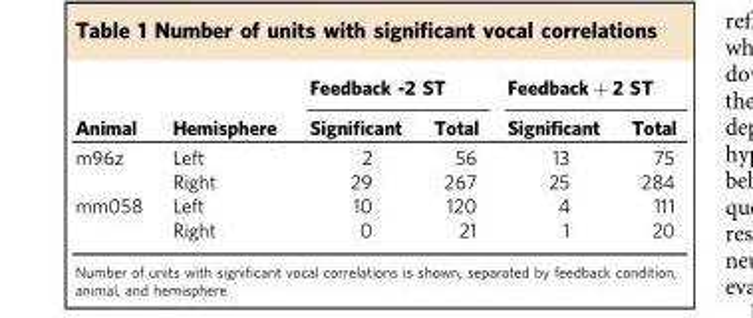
<table><thead><tr><td rowspan="2">Animal</td><td rowspan="2">Hemisphere</td><td colspan="2">Feedback -2 ST</td><td colspan="2">Feedback + 2 ST</td></tr><tr><td>Significant</td><td>Total</td><td>Significant</td><td>Total</td></tr></thead><tbody><tr><td rowspan="2">m96z</td><td>Left</td><td>2</td><td>56</td><td>13</td><td>75</td></tr><tr><td>Right</td><td>29</td><td>267</td><td>25</td><td>284</td></tr><tr><td rowspan="2">mm058</td><td>Left</td><td>10</td><td>120</td><td>4</td><td>111</td></tr><tr><td>Right</td><td>0</td><td>21</td><td>1</td><td>20</td></tr></tbody></table>